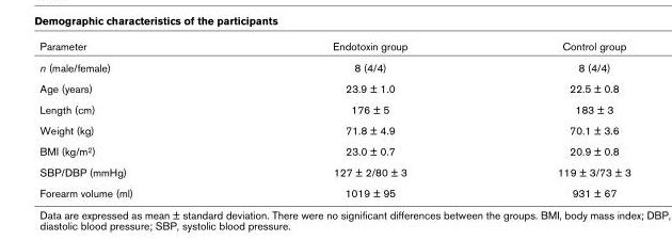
<table><thead><tr><td>Parameter</td><td>Endotoxin group</td><td>Control group</td></tr></thead><tbody><tr><td>n (male/female)</td><td>8 (4/4)</td><td>8 (4/4)</td></tr><tr><td>Age (years)</td><td>23.9 ± 1.0</td><td>22.5 ± 0.8</td></tr><tr><td>Length (cm)</td><td>176 ± 5</td><td>183 ± 3</td></tr><tr><td>Weight (kg)</td><td>71.8 ± 4.9</td><td>70.1 ± 3.6</td></tr><tr><td>BMI (kg/m2)</td><td>23.0 ± 0.7</td><td>20.9 ± 0.8</td></tr><tr><td>SBP/DBP (mmHg)</td><td>127 ± 2/80 ± 3</td><td>119 ± 3/73 ± 3</td></tr><tr><td>Forearm volume (ml)</td><td>1019 ± 95</td><td>931 ± 67</td></tr></tbody></table>